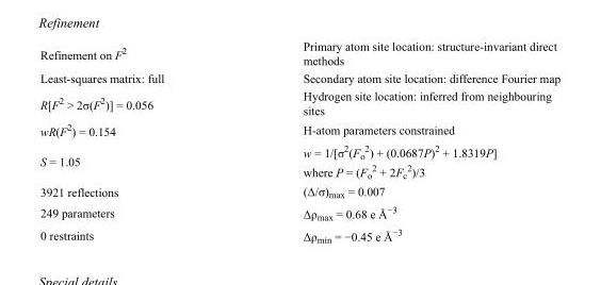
<table><tbody><tr><td>Refinement on F<sup>2</sup></td><td>Primary atom site location: structure-invariant direct methods</td></tr><tr><td>Least-squares matrix: full</td><td>Secondary atom site location: difference Fourier map</td></tr><tr><td>R[F<sup>2</sup> &gt; 2σ(F<sup>2</sup>)] = 0.056</td><td>Hydrogen site location: inferred from neighbouring sites</td></tr><tr><td>wR(F<sup>2</sup>) = 0.154</td><td>H-atom parameters constrained</td></tr><tr><td>S = 1.05</td><td>w = 1/[σ<sup>2</sup>(F<sub>o</sub> <sup>2</sup>) + (0.0687P)<sup>2</sup> + 1.8319P] where P = (F<sub>o</sub> <sup>2</sup> + 2F<sub>c</sub> <sup>2</sup>)/3</td></tr><tr><td>3921 reflections</td><td>(Δ/σ)<sub>max</sub> = 0.007</td></tr><tr><td>249 parameters</td><td>Δρ<sub>max</sub> = 0.68 e Å<sup>−3</sup></td></tr><tr><td>0 restraints</td><td>Δρ<sub>min</sub> = −0.45 e Å<sup>−3</sup></td></tr></tbody></table>